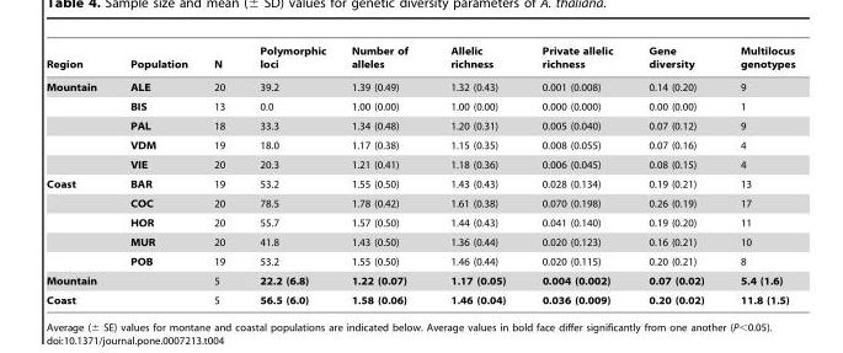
<table><thead><tr><td>Region</td><td>Population</td><td>N</td><td>Polymorphic loci</td><td>Number of alleles</td><td>Allelic richness</td><td>Private allelic richness</td><td>Gene diversity</td><td>Multilocus genotypes</td></tr></thead><tbody><tr><td rowspan="5">Mountain</td><td>ALE</td><td>20</td><td>39.2</td><td>1.39 (0.49)</td><td>1.32 (0.43)</td><td>0.001 (0.008)</td><td>0.14 (0.20)</td><td>9</td></tr><tr><td>BIS</td><td>13</td><td>0.0</td><td>1.00 (0.00)</td><td>1.00 (0.00)</td><td>0.000 (0.000)</td><td>0.00 (0.00)</td><td>1</td></tr><tr><td>PAL</td><td>18</td><td>33.3</td><td>1.34 (0.48)</td><td>1.20 (0.31)</td><td>0.005 (0.040)</td><td>0.07 (0.12)</td><td>9</td></tr><tr><td>VDM</td><td>19</td><td>18.0</td><td>1.17 (0.38)</td><td>1.15 (0.35)</td><td>0.008 (0.055)</td><td>0.07 (0.16)</td><td>4</td></tr><tr><td>VIE</td><td>20</td><td>20.3</td><td>1.21 (0.41)</td><td>1.18 (0.36)</td><td>0.006 (0.045)</td><td>0.08 (0.15)</td><td>4</td></tr><tr><td rowspan="5">Coast</td><td>BAR</td><td>19</td><td>53.2</td><td>1.55 (0.50)</td><td>1.43 (0.43)</td><td>0.028 (0.134)</td><td>0.19 (0.21)</td><td>13</td></tr><tr><td>COC</td><td>20</td><td>78.5</td><td>1.78 (0.42)</td><td>1.61 (0.38)</td><td>0.070 (0.198)</td><td>0.26 (0.19)</td><td>17</td></tr><tr><td>HOR</td><td>20</td><td>55.7</td><td>1.57 (0.50)</td><td>1.44 (0.43)</td><td>0.041 (0.140)</td><td>0.19 (0.20)</td><td>11</td></tr><tr><td>MUR</td><td>20</td><td>41.8</td><td>1.43 (0.50)</td><td>1.36 (0.44)</td><td>0.020 (0.123)</td><td>0.16 (0.21)</td><td>10</td></tr><tr><td>POB</td><td>19</td><td>53.2</td><td>1.55 (0.50)</td><td>1.46 (0.44)</td><td>0.020 (0.115)</td><td>0.20 (0.21)</td><td>8</td></tr><tr><td>Mountain</td><td></td><td>5</td><td>22.2 (6.8)</td><td>1.22 (0.07)</td><td>1.17 (0.05)</td><td>0.004 (0.002)</td><td>0.07 (0.02)</td><td>5.4 (1.6)</td></tr><tr><td>Coast</td><td></td><td>5</td><td>56.5 (6.0)</td><td>1.58 (0.06)</td><td>1.46 (0.04)</td><td>0.036 (0.009)</td><td>0.20 (0.02)</td><td>11.8 (1.5)</td></tr></tbody></table>